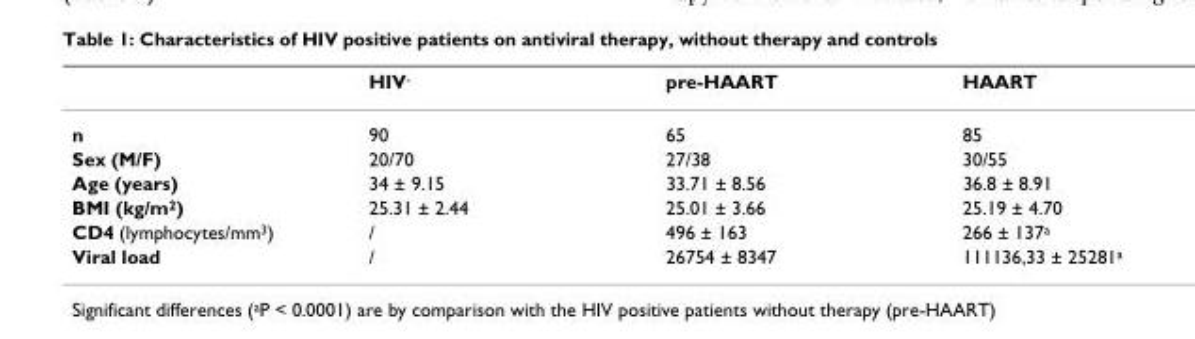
<table><thead><tr><td></td><td>HIV<sup>-</sup></td><td>pre-HAART</td><td>HAART</td></tr></thead><tbody><tr><td>n</td><td>90</td><td>65</td><td>85</td></tr><tr><td>Sex (M/F)</td><td>20/70</td><td>27/38</td><td>30/55</td></tr><tr><td>Age (years)</td><td>34 ± 9.15</td><td>33.71 ± 8.56</td><td>36.8 ± 8.91</td></tr><tr><td>BMI (kg/m<sup>2</sup>)</td><td>25.31 ± 2.44</td><td>25.01 ± 3.66</td><td>25.19 ± 4.70</td></tr><tr><td>CD4 (lymphocytes/mm<sup>3</sup>)</td><td>/</td><td>496 ± 163</td><td>266 ± 137<sup>a</sup></td></tr><tr><td>Viral load</td><td>/</td><td>26754 ± 8347</td><td>111136,33 ± 25281<sup>a</sup></td></tr></tbody></table>